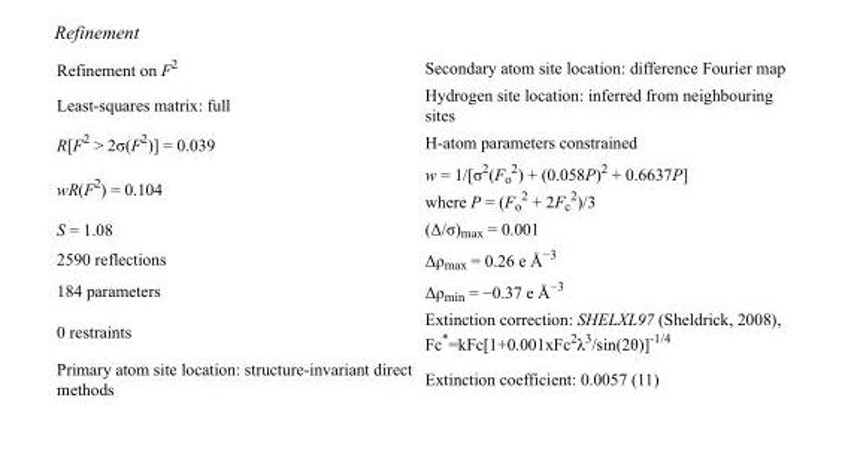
<table><tbody><tr><td>Refinement on F<sup>2</sup></td><td>Secondary atom site location: difference Fourier map</td></tr><tr><td>Least-squares matrix: full</td><td>Hydrogen site location: inferred from neighbouring sites</td></tr><tr><td>R[F<sup>2</sup> &gt; 2σ(F<sup>2</sup>)] = 0.039</td><td>H-atom parameters constrained</td></tr><tr><td>wR(F<sup>2</sup>) = 0.104</td><td>w = 1/[σ<sup>2</sup>(F<sub>o</sub> <sup>2</sup>) + (0.058P)<sup>2</sup> + 0.6637P] where P = (F<sub>o</sub> <sup>2</sup> + 2F<sub>c</sub> <sup>2</sup>)/3</td></tr><tr><td>S = 1.08</td><td>(Δ/σ)<sub>max</sub> = 0.001</td></tr><tr><td>2590 reflections</td><td>Δρ<sub>max</sub> = 0.26 e Å<sup>−3</sup></td></tr><tr><td>184 parameters</td><td>Δρ<sub>min</sub> = −0.37 e Å<sup>−3</sup></td></tr><tr><td>0 restraints</td><td>Extinction correction: SHELXL97 (Sheldrick, 2008), Fc*=kFc[1+0.001xFc<sup>2</sup>λ<sup>3</sup>/sin(2θ)]<sup>-1/4</sup></td></tr><tr><td>Primary atom site location: structure-invariant direct methods</td><td>Extinction coefficient: 0.0057 (11)</td></tr></tbody></table>